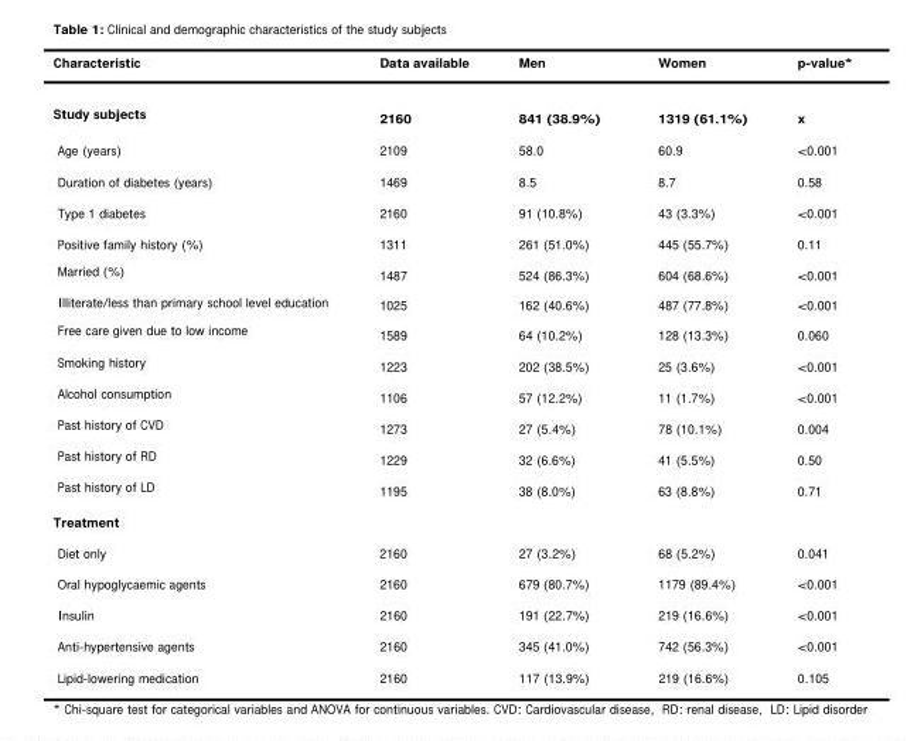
<table><thead><tr><td>Characteristic</td><td>Data available</td><td>Men</td><td>Women</td><td>p-value*</td></tr></thead><tbody><tr><td>Study subjects</td><td>2160</td><td>841 (38.9%)</td><td>1319 (61.1%)</td><td>x</td></tr><tr><td>Age (years)</td><td>2109</td><td>58.0</td><td>60.9</td><td>&lt;0.001</td></tr><tr><td>Duration of diabetes (years)</td><td>1469</td><td>8.5</td><td>8.7</td><td>0.58</td></tr><tr><td>Type 1 diabetes</td><td>2160</td><td>91 (10.8%)</td><td>43 (3.3%)</td><td>&lt;0.001</td></tr><tr><td>Positive family history (%)</td><td>1311</td><td>261 (51.0%)</td><td>445 (55.7%)</td><td>0.11</td></tr><tr><td>Married (%)</td><td>1487</td><td>524 (86.3%)</td><td>604 (68.6%)</td><td>&lt;0.001</td></tr><tr><td>Illiterate/less than primary school level education</td><td>1025</td><td>162 (40.6%)</td><td>487 (77.8%)</td><td>&lt;0.001</td></tr><tr><td>Free care given due to low income</td><td>1589</td><td>64 (10.2%)</td><td>128 (13.3%)</td><td>0.060</td></tr><tr><td>Smoking history</td><td>1223</td><td>202 (38.5%)</td><td>25 (3.6%)</td><td>&lt;0.001</td></tr><tr><td>Alcohol consumption</td><td>1106</td><td>57 (12.2%)</td><td>11 (1.7%)</td><td>&lt;0.001</td></tr><tr><td>Past history of CVD</td><td>1273</td><td>27 (5.4%)</td><td>78 (10.1%)</td><td>0.004</td></tr><tr><td>Past history of RD</td><td>1229</td><td>32 (6.6%)</td><td>41 (5.5%)</td><td>0.50</td></tr><tr><td>Past history of LD</td><td>1195</td><td>38 (8.0%)</td><td>63 (8.8%)</td><td>0.71</td></tr><tr><td colspan="5">Treatment</td></tr><tr><td>Diet only</td><td>2160</td><td>27 (3.2%)</td><td>68 (5.2%)</td><td>0.041</td></tr><tr><td>Oral hypoglycaemic agents</td><td>2160</td><td>679 (80.7%)</td><td>1179 (89.4%)</td><td>&lt;0.001</td></tr><tr><td>Insulin</td><td>2160</td><td>191 (22.7%)</td><td>219 (16.6%)</td><td>&lt;0.001</td></tr><tr><td>Anti-hypertensive agents</td><td>2160</td><td>345 (41.0%)</td><td>742 (56.3%)</td><td>&lt;0.001</td></tr><tr><td>Lipid-lowering medication</td><td>2160</td><td>117 (13.9%)</td><td>219 (16.6%)</td><td>0.105</td></tr></tbody></table>